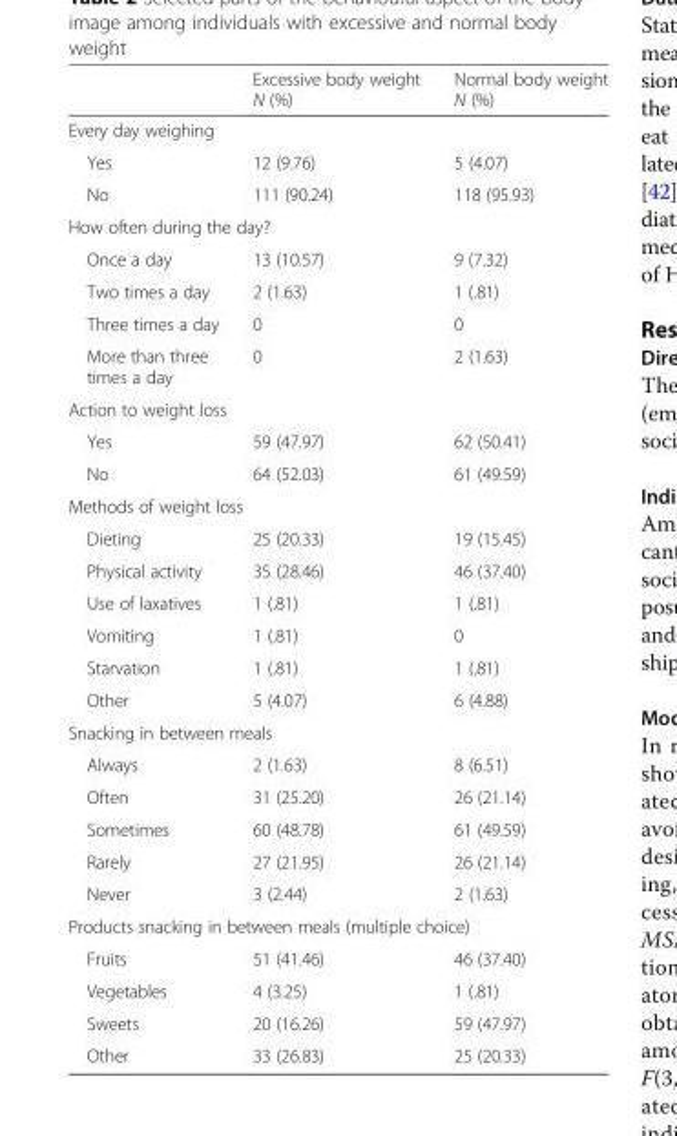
<table><thead><tr><td></td><td>Excessive body weight N (%)</td><td>Normal body weight N (%)</td></tr></thead><tbody><tr><td colspan="3">Every day weighing</td></tr><tr><td>Yes</td><td>12 (9.76)</td><td>5 (4.07)</td></tr><tr><td>No</td><td>111 (90.24)</td><td>118 (95.93)</td></tr><tr><td colspan="3">How often during the day?</td></tr><tr><td>Once a day</td><td>13 (10.57)</td><td>9 (7.32)</td></tr><tr><td>Two times a day</td><td>2 (1.63)</td><td>1 (.81)</td></tr><tr><td>Three times a day</td><td>0</td><td>0</td></tr><tr><td>More than three times a day</td><td>0</td><td>2 (1.63)</td></tr><tr><td colspan="3">Action to weight loss</td></tr><tr><td>Yes</td><td>59 (47.97)</td><td>62 (50.41)</td></tr><tr><td>No</td><td>64 (52.03)</td><td>61 (49.59)</td></tr><tr><td colspan="3">Methods of weight loss</td></tr><tr><td>Dieting</td><td>25 (20.33)</td><td>19 (15.45)</td></tr><tr><td>Physical activity</td><td>35 (28.46)</td><td>46 (37.40)</td></tr><tr><td>Use of laxatives</td><td>1 (.81)</td><td>1 (.81)</td></tr><tr><td>Vomiting</td><td>1 (.81)</td><td>0</td></tr><tr><td>Starvation</td><td>1 (.81)</td><td>1 (.81)</td></tr><tr><td>Other</td><td>5 (4.07)</td><td>6 (4.88)</td></tr><tr><td colspan="3">Snacking in between meals</td></tr><tr><td>Always</td><td>2 (1.63)</td><td>8 (6.51)</td></tr><tr><td>Often</td><td>31 (25.20)</td><td>26 (21.14)</td></tr><tr><td>Sometimes</td><td>60 (48.78)</td><td>61 (49.59)</td></tr><tr><td>Rarely</td><td>27 (21.95)</td><td>26 (21.14)</td></tr><tr><td>Never</td><td>3 (2.44)</td><td>2 (1.63)</td></tr><tr><td colspan="3">Products snacking in between meals (multiple choice)</td></tr><tr><td>Fruits</td><td>51 (41.46)</td><td>46 (37.40)</td></tr><tr><td>Vegetables</td><td>4 (3.25)</td><td>1 (.81)</td></tr><tr><td>Sweets</td><td>20 (16.26)</td><td>59 (47.97)</td></tr><tr><td>Other</td><td>33 (26.83)</td><td>25 (20.33)</td></tr></tbody></table>